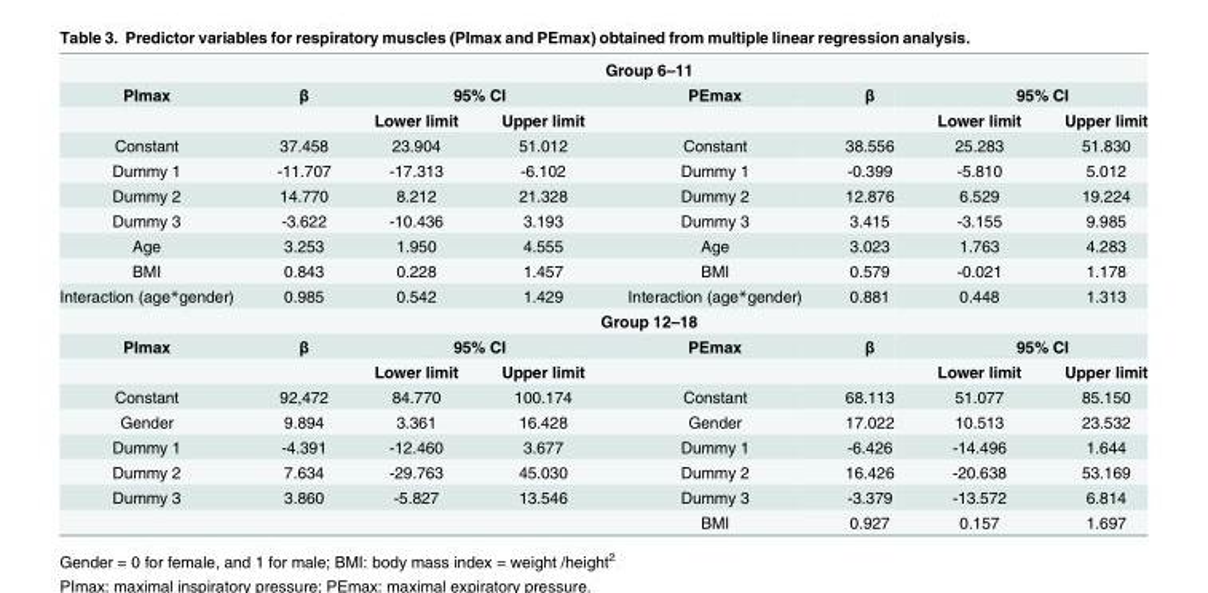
<table><thead><tr><td rowspan="3">PImax</td><td colspan="6">Group 6–11</td><td></td></tr><tr><td rowspan="2">β</td><td colspan="2">95% CI</td><td rowspan="2">PEmax</td><td rowspan="2">β</td><td colspan="2">95% CI</td></tr><tr><td>Lower limit</td><td>Upper limit</td><td>Lower limit</td><td>Upper limit</td></tr></thead><tbody><tr><td>Constant</td><td>37.458</td><td>23.904</td><td>51.012</td><td>Constant</td><td>38.556</td><td>25.283</td><td>51.830</td></tr><tr><td>Dummy 1</td><td>-11.707</td><td>-17.313</td><td>-6.102</td><td>Dummy 1</td><td>-0.399</td><td>-5.810</td><td>5.012</td></tr><tr><td>Dummy 2</td><td>14.770</td><td>8.212</td><td>21.328</td><td>Dummy 2</td><td>12.876</td><td>6.529</td><td>19.224</td></tr><tr><td>Dummy 3</td><td>-3.622</td><td>-10.436</td><td>3.193</td><td>Dummy 3</td><td>3.415</td><td>-3.155</td><td>9.985</td></tr><tr><td>Age</td><td>3.253</td><td>1.950</td><td>4.555</td><td>Age</td><td>3.023</td><td>1.763</td><td>4.283</td></tr><tr><td>BMI</td><td>0.843</td><td>0.228</td><td>1.457</td><td>BMI</td><td>0.579</td><td>-0.021</td><td>1.178</td></tr><tr><td rowspan="2">Interaction (age*gender)</td><td>0.985</td><td>0.542</td><td>1.429</td><td>Interaction (age*gender)</td><td>0.881</td><td>0.448</td><td>1.313</td></tr><tr><td colspan="6">Group 12–18</td><td></td></tr><tr><td rowspan="2">PImax</td><td>β</td><td colspan="2">95% CI</td><td>PEmax</td><td>β</td><td colspan="2">95% CI</td></tr><tr><td></td><td>Lower limit</td><td>Upper limit</td><td></td><td></td><td>Lower limit</td><td>Upper limit</td></tr><tr><td>Constant</td><td>92,472</td><td>84.770</td><td>100.174</td><td>Constant</td><td>68.113</td><td>51.077</td><td>85.150</td></tr><tr><td>Gender</td><td>9.894</td><td>3.361</td><td>16.428</td><td>Gender</td><td>17.022</td><td>10.513</td><td>23.532</td></tr><tr><td>Dummy 1</td><td>-4.391</td><td>-12.460</td><td>3.677</td><td>Dummy 1</td><td>-6.426</td><td>-14.496</td><td>1.644</td></tr><tr><td>Dummy 2</td><td>7.634</td><td>-29.763</td><td>45.030</td><td>Dummy 2</td><td>16.426</td><td>-20.638</td><td>53.169</td></tr><tr><td rowspan="2">Dummy 3</td><td>3.860</td><td>-5.827</td><td>13.546</td><td>Dummy 3</td><td>-3.379</td><td>-13.572</td><td>6.814</td></tr><tr><td></td><td></td><td></td><td>BMI</td><td>0.927</td><td>0.157</td><td>1.697</td></tr></tbody></table>